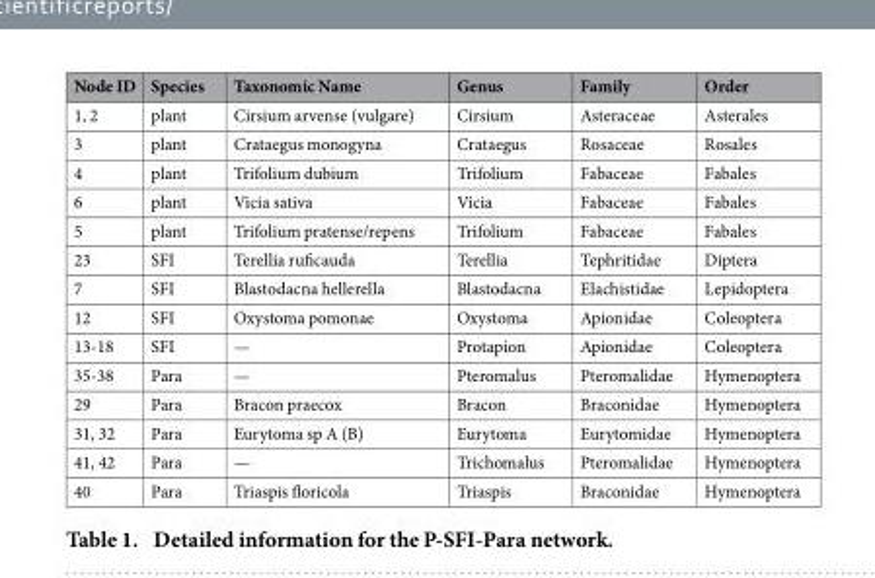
<table><thead><tr><td>Node ID</td><td>Species</td><td>Taxonomic Name</td><td>Genus</td><td>Family</td><td>Order</td></tr></thead><tbody><tr><td>1, 2</td><td>plant</td><td>Cirsium arvense (vulgare)</td><td>Cirsium</td><td>Asteraceae</td><td>Asterales</td></tr><tr><td>3</td><td>plant</td><td>Crataegus monogyna</td><td>Crataegus</td><td>Rosaceae</td><td>Rosales</td></tr><tr><td>4</td><td>plant</td><td>Trifolium dubium</td><td>Trifolium</td><td>Fabaceae</td><td>Fabales</td></tr><tr><td>6</td><td>plant</td><td>Vicia sativa</td><td>Vicia</td><td>Fabaceae</td><td>Fabales</td></tr><tr><td>5</td><td>plant</td><td>Trifolium pratense/repens</td><td>Trifolium</td><td>Fabaceae</td><td>Fabales</td></tr><tr><td>23</td><td>SFI</td><td>Terellia ruficauda</td><td>Terellia</td><td>Tephritidae</td><td>Diptera</td></tr><tr><td>7</td><td>SFI</td><td>Blastodacna hellerella</td><td>Blastodacna</td><td>Elachistidae</td><td>Lepidoptera</td></tr><tr><td>12</td><td>SFI</td><td>Oxystoma pomonae</td><td>Oxystoma</td><td>Apionidae</td><td>Coleoptera</td></tr><tr><td>13-18</td><td>SFI</td><td>—</td><td>Protapion</td><td>Apionidae</td><td>Coleoptera</td></tr><tr><td>35-38</td><td>Para</td><td>—</td><td>Pteromalus</td><td>Pteromalidae</td><td>Hymenoptera</td></tr><tr><td>29</td><td>Para</td><td>Bracon praecox</td><td>Bracon</td><td>Braconidae</td><td>Hymenoptera</td></tr><tr><td>31, 32</td><td>Para</td><td>Eurytoma sp A (B)</td><td>Eurytoma</td><td>Eurytomidae</td><td>Hymenoptera</td></tr><tr><td>41, 42</td><td>Para</td><td>—</td><td>Trichomalus</td><td>Pteromalidae</td><td>Hymenoptera</td></tr><tr><td>40</td><td>Para</td><td>Triaspis floricola</td><td>Triaspis</td><td>Braconidae</td><td>Hymenoptera</td></tr></tbody></table>